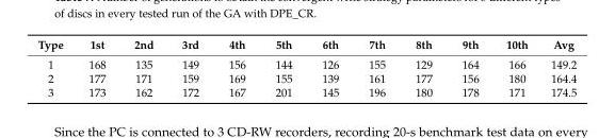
<table><thead><tr><td>Type</td><td>1st</td><td>2nd</td><td>3rd</td><td>4th</td><td>5th</td><td>6th</td><td>7th</td><td>8th</td><td>9th</td><td>10th</td><td>Avg</td></tr></thead><tbody><tr><td>1</td><td>168</td><td>135</td><td>149</td><td>156</td><td>144</td><td>126</td><td>155</td><td>129</td><td>164</td><td>166</td><td>149.2</td></tr><tr><td>2</td><td>177</td><td>171</td><td>159</td><td>169</td><td>155</td><td>139</td><td>161</td><td>177</td><td>156</td><td>180</td><td>164.4</td></tr><tr><td>3</td><td>173</td><td>162</td><td>172</td><td>167</td><td>201</td><td>145</td><td>196</td><td>180</td><td>178</td><td>171</td><td>174.5</td></tr></tbody></table>